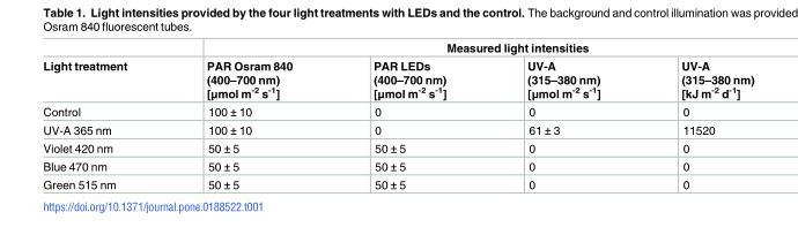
<table><thead><tr><td rowspan="2">Light treatment</td><td colspan="4">Measured light intensities</td></tr><tr><td>PAR Osram 840 (400–700 nm) [μmol m<sup>-2</sup> s<sup>-1</sup>]</td><td>PAR LEDs (400–700 nm) [μmol m<sup>-2</sup> s<sup>-1</sup>]</td><td>UV-A (315–380 nm) [μmol m<sup>-2</sup> s<sup>-1</sup>]</td><td>UV-A (315–380 nm) [kJ m<sup>-2</sup> d<sup>-1</sup>]</td></tr></thead><tbody><tr><td>Control</td><td>100 ± 10</td><td>0</td><td>0</td><td>0</td></tr><tr><td>UV-A 365 nm</td><td>100 ± 10</td><td>0</td><td>61 ± 3</td><td>11520</td></tr><tr><td>Violet 420 nm</td><td>50 ± 5</td><td>50 ± 5</td><td>0</td><td>0</td></tr><tr><td>Blue 470 nm</td><td>50 ± 5</td><td>50 ± 5</td><td>0</td><td>0</td></tr><tr><td>Green 515 nm</td><td>50 ± 5</td><td>50 ± 5</td><td>0</td><td>0</td></tr></tbody></table>